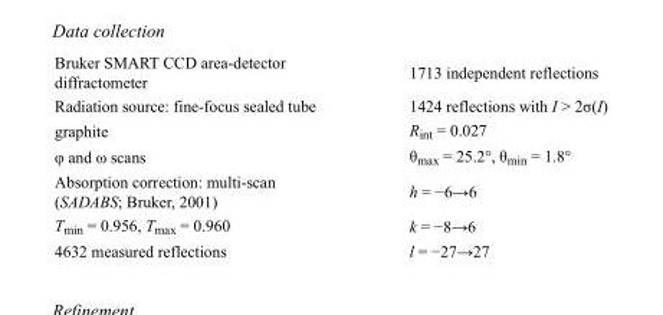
<table><tbody><tr><td>Bruker SMART CCD area-detector diffractometer</td><td>1713 independent reflections</td></tr><tr><td>Radiation source: fine-focus sealed tube</td><td>1424 reflections with I &gt; 2σ(I)</td></tr><tr><td>graphite</td><td>R<sub>int</sub> = 0.027</td></tr><tr><td>φ and ω scans</td><td>θ<sub>max</sub> = 25.2°, θ<sub>min</sub> = 1.8°</td></tr><tr><td>Absorption correction: multi-scan (SADABS; Bruker, 2001)</td><td>h = −6→6</td></tr><tr><td>T<sub>min</sub> = 0.956, T<sub>max</sub> = 0.960</td><td>k = −8→6</td></tr><tr><td>4632 measured reflections</td><td>l = −27→27</td></tr></tbody></table>